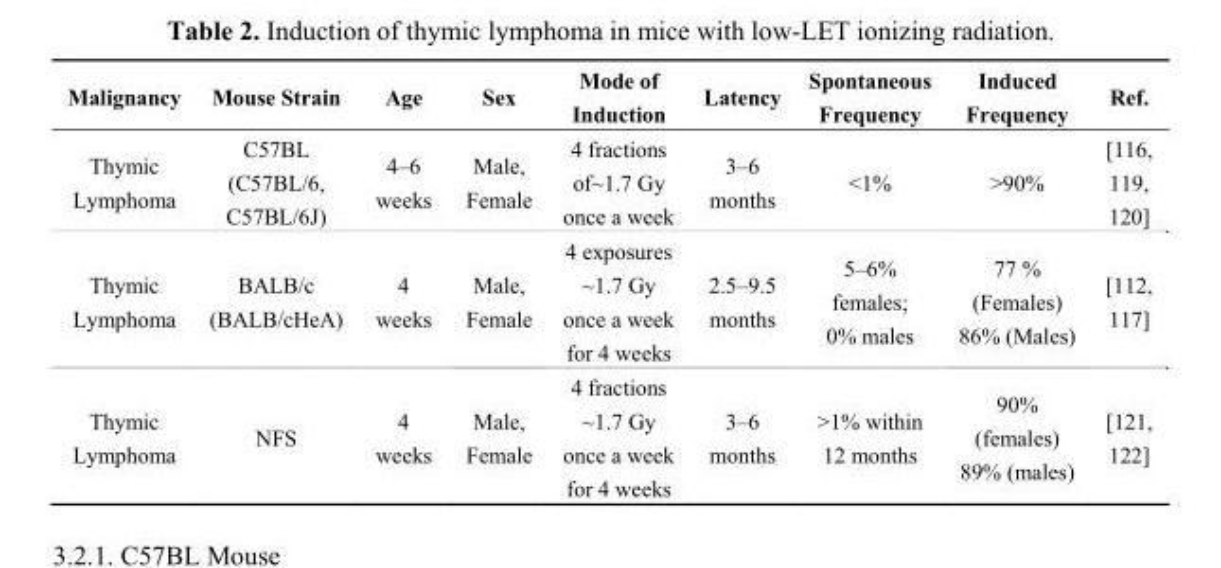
<table><thead><tr><td>Malignancy</td><td>Mouse Strain</td><td>Age</td><td>Sex</td><td>Mode of Induction</td><td>Latency</td><td>Spontaneous Frequency</td><td>Induced Frequency</td><td>Ref.</td></tr></thead><tbody><tr><td>Thymic Lymphoma</td><td>C57BL (C57BL/6, C57BL/6J)</td><td>4–6 weeks</td><td>Male, Female</td><td>4 fractions of~1.7 Gy once a week</td><td>3–6 months</td><td>&lt;1%</td><td>&gt;90%</td><td>[116, 119, 120]</td></tr><tr><td>Thymic Lymphoma</td><td>BALB/c (BALB/cHeA)</td><td>4 weeks</td><td>Male, Female</td><td>4 exposures ~1.7 Gy once a week for 4 weeks</td><td>2.5–9.5 months</td><td>5–6% females; 0% males</td><td>77 % (Females) 86% (Males)</td><td>[112, 117]</td></tr><tr><td>Thymic Lymphoma</td><td>NFS</td><td>4 weeks</td><td>Male, Female</td><td>4 fractions ~1.7 Gy once a week for 4 weeks</td><td>3–6 months</td><td>&gt;1% within 12 months</td><td>90% (females) 89% (males)</td><td>[121, 122]</td></tr></tbody></table>